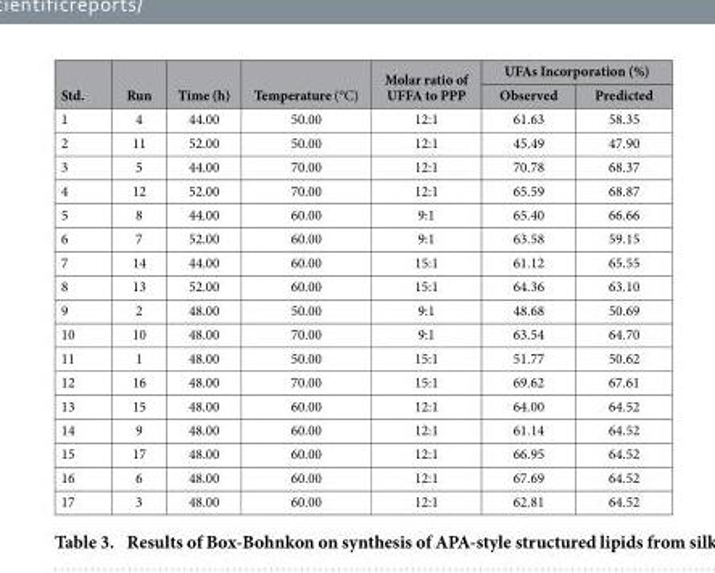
<table><thead><tr><td rowspan="2">Std.</td><td rowspan="2">Run</td><td rowspan="2">Time (h)</td><td rowspan="2">Temperature (°C)</td><td rowspan="2">Molar ratio of UFFA to PPP</td><td colspan="2">UFAs Incorporation (%)</td></tr><tr><td>Observed</td><td>Predicted</td></tr></thead><tbody><tr><td>1</td><td>4</td><td>44.00</td><td>50.00</td><td>12:1</td><td>61.63</td><td>58.35</td></tr><tr><td>2</td><td>11</td><td>52.00</td><td>50.00</td><td>12:1</td><td>45.49</td><td>47.90</td></tr><tr><td>3</td><td>5</td><td>44.00</td><td>70.00</td><td>12:1</td><td>70.78</td><td>68.37</td></tr><tr><td>4</td><td>12</td><td>52.00</td><td>70.00</td><td>12:1</td><td>65.59</td><td>68.87</td></tr><tr><td>5</td><td>8</td><td>44.00</td><td>60.00</td><td>9:1</td><td>65.40</td><td>66.66</td></tr><tr><td>6</td><td>7</td><td>52.00</td><td>60.00</td><td>9:1</td><td>63.58</td><td>59.15</td></tr><tr><td>7</td><td>14</td><td>44.00</td><td>60.00</td><td>15:1</td><td>61.12</td><td>65.55</td></tr><tr><td>8</td><td>13</td><td>52.00</td><td>60.00</td><td>15:1</td><td>64.36</td><td>63.10</td></tr><tr><td>9</td><td>2</td><td>48.00</td><td>50.00</td><td>9:1</td><td>48.68</td><td>50.69</td></tr><tr><td>10</td><td>10</td><td>48.00</td><td>70.00</td><td>9:1</td><td>63.54</td><td>64.70</td></tr><tr><td>11</td><td>1</td><td>48.00</td><td>50.00</td><td>15:1</td><td>51.77</td><td>50.62</td></tr><tr><td>12</td><td>16</td><td>48.00</td><td>70.00</td><td>15:1</td><td>69.62</td><td>67.61</td></tr><tr><td>13</td><td>15</td><td>48.00</td><td>60.00</td><td>12:1</td><td>64.00</td><td>64.52</td></tr><tr><td>14</td><td>9</td><td>48.00</td><td>60.00</td><td>12:1</td><td>61.14</td><td>64.52</td></tr><tr><td>15</td><td>17</td><td>48.00</td><td>60.00</td><td>12:1</td><td>66.95</td><td>64.52</td></tr><tr><td>16</td><td>6</td><td>48.00</td><td>60.00</td><td>12:1</td><td>67.69</td><td>64.52</td></tr><tr><td>17</td><td>3</td><td>48.00</td><td>60.00</td><td>12:1</td><td>62.81</td><td>64.52</td></tr></tbody></table>